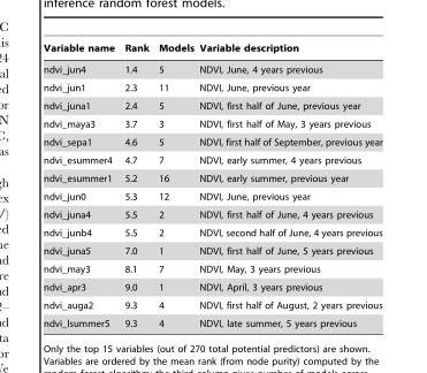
<table><thead><tr><td>Variable name</td><td>Rank</td><td>Models</td><td>Variable description</td></tr></thead><tbody><tr><td>ndvi_jun4</td><td>1.4</td><td>5</td><td>NDVI, June, 4 years previous</td></tr><tr><td>ndvi_jun1</td><td>2.3</td><td>11</td><td>NDVI, June, previous year</td></tr><tr><td>ndvi_juna1</td><td>2.4</td><td>5</td><td>NDVI, first half of June, previous year</td></tr><tr><td>ndvi_maya3</td><td>3.7</td><td>3</td><td>NDVI, first half of May, 3 years previous</td></tr><tr><td>ndvi_sepa1</td><td>4.6</td><td>5</td><td>NDVI, first half of September, previous year</td></tr><tr><td>ndvi_esummer4</td><td>4.7</td><td>7</td><td>NDVI, early summer, 4 years previous</td></tr><tr><td>ndvi_esummer1</td><td>5.2</td><td>16</td><td>NDVI, early summer, previous year</td></tr><tr><td>ndvi_jun0</td><td>5.3</td><td>12</td><td>NDVI, June, previous year</td></tr><tr><td>ndvi_juna4</td><td>5.5</td><td>2</td><td>NDVI, first half of June, 4 years previous</td></tr><tr><td>ndvi_junb4</td><td>5.5</td><td>2</td><td>NDVI, second half of June, 4 years previous</td></tr><tr><td>ndvi_juna5</td><td>7.0</td><td>1</td><td>NDVI, first half of June, 5 years previous</td></tr><tr><td>ndvi_may3</td><td>8.1</td><td>7</td><td>NDVI, May, 3 years previous</td></tr><tr><td>ndvi_apr3</td><td>9.0</td><td>1</td><td>NDVI, April, 3 years previous</td></tr><tr><td>ndvi_auga2</td><td>9.3</td><td>4</td><td>NDVI, first half of August, 2 years previous</td></tr><tr><td>ndvi_lsummer5</td><td>9.3</td><td>4</td><td>NDVI, late summer, 5 years previous</td></tr></tbody></table>